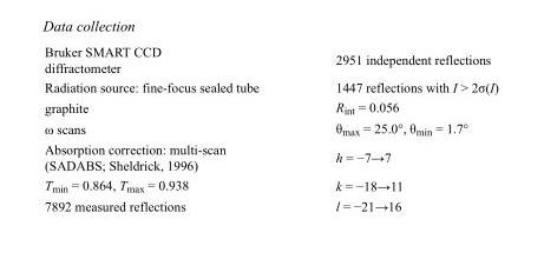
<table><tbody><tr><td>Bruker SMART CCD diffractometer</td><td>2951 independent reflections</td></tr><tr><td>Radiation source: fine-focus sealed tube</td><td>1447 reflections with I &gt; 2σ(I)</td></tr><tr><td>graphite</td><td>R<sub>int</sub> = 0.056</td></tr><tr><td>ω scans</td><td>θ<sub>max</sub> = 25.0°, θ<sub>min</sub> = 1.7°</td></tr><tr><td>Absorption correction: multi-scan (SADABS; Sheldrick, 1996)</td><td>h = −7→7</td></tr><tr><td>T<sub>min</sub> = 0.864, T<sub>max</sub> = 0.938</td><td>k = −18→11</td></tr><tr><td>7892 measured reflections</td><td>l = −21→16</td></tr></tbody></table>